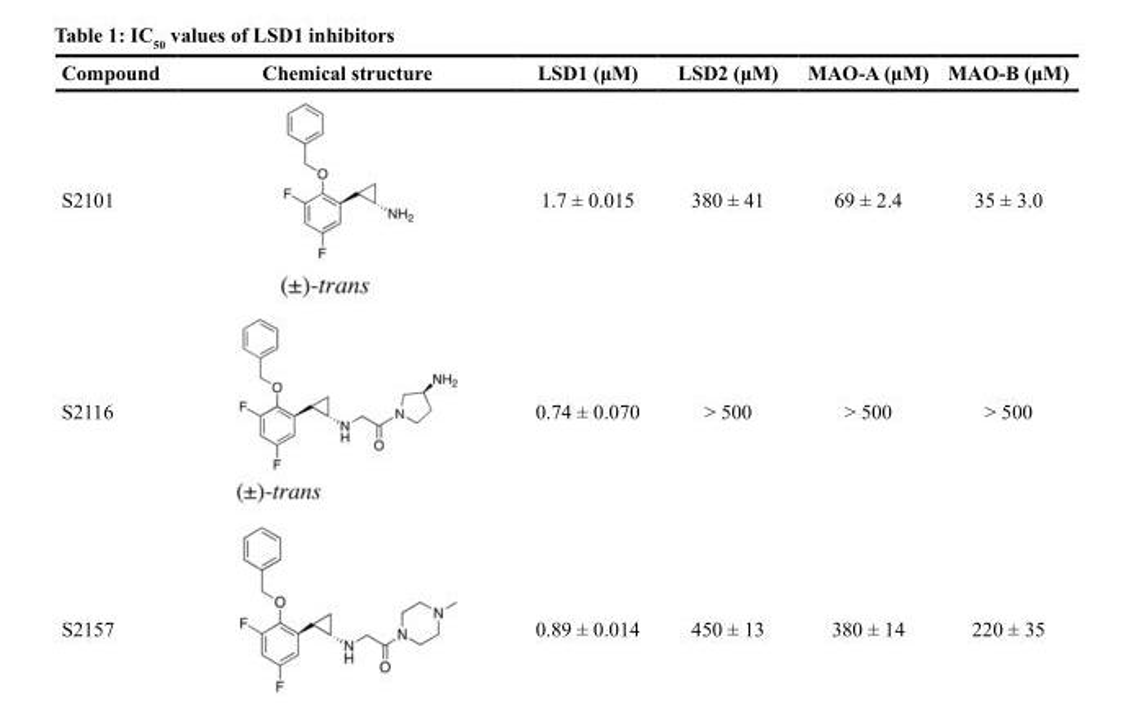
<table><thead><tr><td>Compound</td><td>Chemical structure</td><td>LSD1 (μM)</td><td>LSD2 (μM)</td><td>MAO-A (μM)</td><td>MAO-B (μM)</td></tr></thead><tbody><tr><td>S2101</td><td></td><td>1.7 ± 0.015</td><td>380 ± 41</td><td>69 ± 2.4</td><td>35 ± 3.0</td></tr><tr><td>S2116</td><td></td><td>0.74 ± 0.070</td><td>&gt; 500</td><td>&gt; 500</td><td>&gt; 500</td></tr><tr><td>S2157</td><td></td><td>0.89 ± 0.014</td><td>450 ± 13</td><td>380 ± 14</td><td>220 ± 35</td></tr></tbody></table>